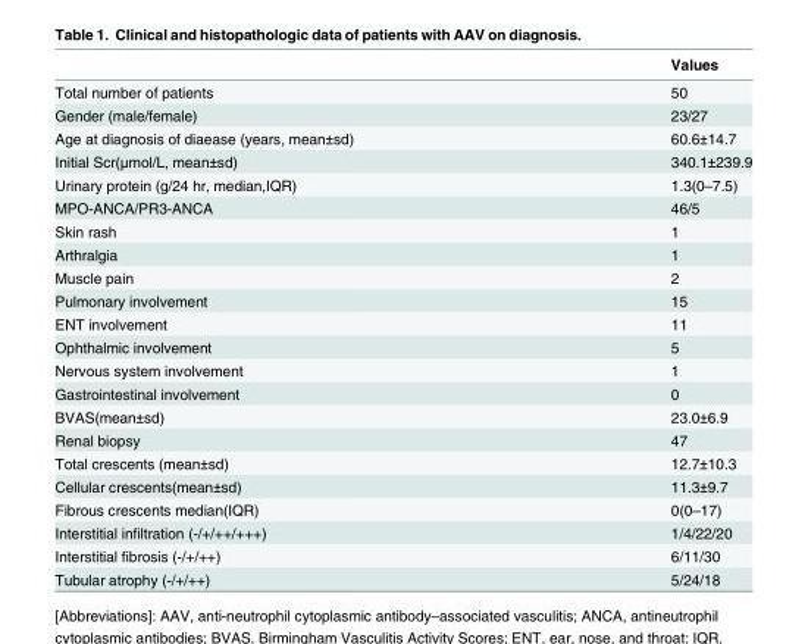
<table><thead><tr><td></td><td>Values</td></tr></thead><tbody><tr><td>Total number of patients</td><td>50</td></tr><tr><td>Gender (male/female)</td><td>23/27</td></tr><tr><td>Age at diagnosis of diaease (years, mean±sd)</td><td>60.6±14.7</td></tr><tr><td>Initial Scr(μmol/L, mean±sd)</td><td>340.1±239.9</td></tr><tr><td>Urinary protein (g/24 hr, median,IQR)</td><td>1.3(0–7.5)</td></tr><tr><td>MPO-ANCA/PR3-ANCA</td><td>46/5</td></tr><tr><td>Skin rash</td><td>1</td></tr><tr><td>Arthralgia</td><td>1</td></tr><tr><td>Muscle pain</td><td>2</td></tr><tr><td>Pulmonary involvement</td><td>15</td></tr><tr><td>ENT involvement</td><td>11</td></tr><tr><td>Ophthalmic involvement</td><td>5</td></tr><tr><td>Nervous system involvement</td><td>1</td></tr><tr><td>Gastrointestinal involvement</td><td>0</td></tr><tr><td>BVAS(mean±sd)</td><td>23.0±6.9</td></tr><tr><td>Renal biopsy</td><td>47</td></tr><tr><td>Total crescents (mean±sd)</td><td>12.7±10.3</td></tr><tr><td>Cellular crescents(mean±sd)</td><td>11.3±9.7</td></tr><tr><td>Fibrous crescents median(IQR)</td><td>0(0–17)</td></tr><tr><td>Interstitial infiltration (-/+/++/+++)</td><td>1/4/22/20</td></tr><tr><td>Interstitial fibrosis (-/+/++)</td><td>6/11/30</td></tr><tr><td>Tubular atrophy (-/+/++)</td><td>5/24/18</td></tr></tbody></table>